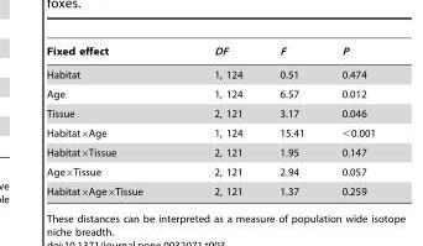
<table><thead><tr><td>Fixed effect</td><td>DF</td><td>F</td><td>P</td></tr></thead><tbody><tr><td>Habitat</td><td>1, 124</td><td>0.51</td><td>0.474</td></tr><tr><td>Age</td><td>1, 124</td><td>6.57</td><td>0.012</td></tr><tr><td>Tissue</td><td>2, 121</td><td>3.17</td><td>0.046</td></tr><tr><td>Habitat×Age</td><td>1, 124</td><td>15.41</td><td>&lt;0.001</td></tr><tr><td>Habitat×Tissue</td><td>2, 121</td><td>1.95</td><td>0.147</td></tr><tr><td>Age×Tissue</td><td>2, 121</td><td>2.94</td><td>0.057</td></tr><tr><td>Habitat×Age×Tissue</td><td>2, 121</td><td>1.37</td><td>0.259</td></tr></tbody></table>